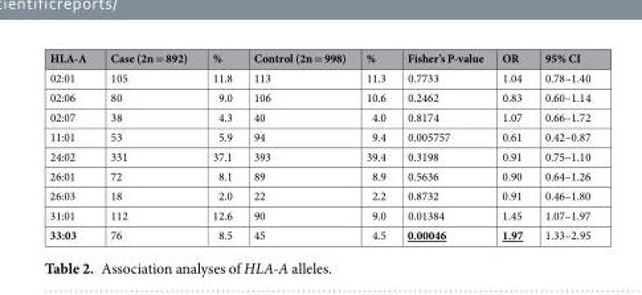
<table><thead><tr><td>HLA-A</td><td>Case (2n = 892)</td><td>%</td><td>Control (2n = 998)</td><td>%</td><td>Fisher’s P-value</td><td>OR</td><td>95% CI</td></tr></thead><tbody><tr><td>02:01</td><td>105</td><td>11.8</td><td>113</td><td>11.3</td><td>0.7733</td><td>1.04</td><td>0.78–1.40</td></tr><tr><td>02:06</td><td>80</td><td>9.0</td><td>106</td><td>10.6</td><td>0.2462</td><td>0.83</td><td>0.60–1.14</td></tr><tr><td>02:07</td><td>38</td><td>4.3</td><td>40</td><td>4.0</td><td>0.8174</td><td>1.07</td><td>0.66–1.72</td></tr><tr><td>11:01</td><td>53</td><td>5.9</td><td>94</td><td>9.4</td><td>0.005757</td><td>0.61</td><td>0.42–0.87</td></tr><tr><td>24:02</td><td>331</td><td>37.1</td><td>393</td><td>39.4</td><td>0.3198</td><td>0.91</td><td>0.75–1.10</td></tr><tr><td>26:01</td><td>72</td><td>8.1</td><td>89</td><td>8.9</td><td>0.5636</td><td>0.90</td><td>0.64–1.26</td></tr><tr><td>26:03</td><td>18</td><td>2.0</td><td>22</td><td>2.2</td><td>0.8732</td><td>0.91</td><td>0.46–1.80</td></tr><tr><td>31:01</td><td>112</td><td>12.6</td><td>90</td><td>9.0</td><td>0.01384</td><td>1.45</td><td>1.07–1.97</td></tr><tr><td>33:03</td><td>76</td><td>8.5</td><td>45</td><td>4.5</td><td>0.00046</td><td>1.97</td><td>1.33–2.95</td></tr></tbody></table>